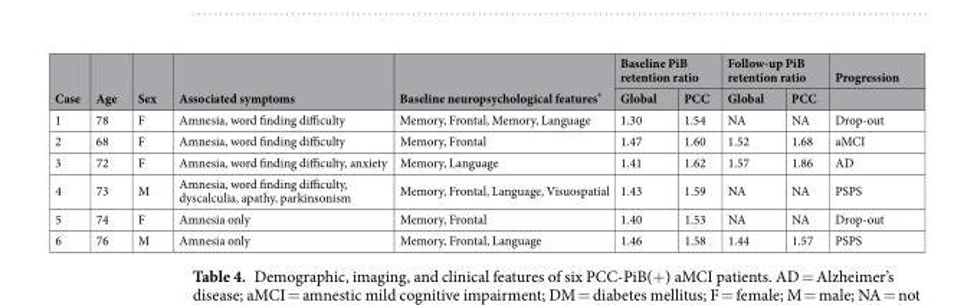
<table><thead><tr><td rowspan="2">Case</td><td rowspan="2">Age</td><td rowspan="2">Sex</td><td rowspan="2">Associated symptoms</td><td rowspan="2">Baseline neuropsychological features*</td><td colspan="2">Baseline PiB retention ratio</td><td colspan="2">Follow-up PiB retention ratio</td><td rowspan="2">Progression</td></tr><tr><td>Global</td><td>PCC</td><td>Global</td><td>PCC</td></tr></thead><tbody><tr><td>1</td><td>78</td><td>F</td><td>Amnesia, word finding difficulty</td><td>Memory, Frontal, Memory, Language</td><td>1.30</td><td>1.54</td><td>NA</td><td>NA</td><td>Drop-out</td></tr><tr><td>2</td><td>68</td><td>F</td><td>Amnesia, word finding difficulty</td><td>Memory, Frontal</td><td>1.47</td><td>1.60</td><td>1.52</td><td>1.68</td><td>aMCI</td></tr><tr><td>3</td><td>72</td><td>F</td><td>Amnesia, word finding difficulty, anxiety</td><td>Memory, Language</td><td>1.41</td><td>1.62</td><td>1.57</td><td>1.86</td><td>AD</td></tr><tr><td>4</td><td>73</td><td>M</td><td>Amnesia, word finding difficulty, dyscalculia, apathy, parkinsonism</td><td>Memory, Frontal, Language, Visuospatial</td><td>1.43</td><td>1.59</td><td>NA</td><td>NA</td><td>PSPS</td></tr><tr><td>5</td><td>74</td><td>F</td><td>Amnesia only</td><td>Memory, Frontal</td><td>1.40</td><td>1.53</td><td>NA</td><td>NA</td><td>Drop-out</td></tr><tr><td>6</td><td>76</td><td>M</td><td>Amnesia only</td><td>Memory, Frontal, Language</td><td>1.46</td><td>1.58</td><td>1.44</td><td>1.57</td><td>PSPS</td></tr></tbody></table>